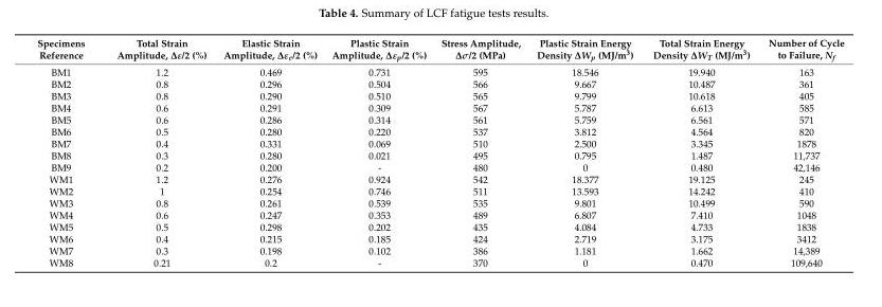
<table><thead><tr><td>Specimens Reference</td><td>Total Strain Amplitude, ∆ε/2 (%)</td><td>Elastic Strain Amplitude, ∆εe/2 (%)</td><td>Plastic Strain Amplitude, ∆εp/2 (%)</td><td>Stress Amplitude, ∆σ/2 (MPa)</td><td>Plastic Strain Energy Density ∆Wp (MJ/m3)</td><td>Total Strain Energy Density ∆WT (MJ/m3)</td><td>Number of Cycle to Failure, N<sub>f</sub></td></tr></thead><tbody><tr><td>BM1</td><td>1.2</td><td>0.469</td><td>0.731</td><td>595</td><td>18.546</td><td>19.940</td><td>163</td></tr><tr><td>BM2</td><td>0.8</td><td>0.296</td><td>0.504</td><td>566</td><td>9.667</td><td>10.487</td><td>361</td></tr><tr><td>BM3</td><td>0.8</td><td>0.290</td><td>0.510</td><td>565</td><td>9.799</td><td>10.618</td><td>405</td></tr><tr><td>BM4</td><td>0.6</td><td>0.291</td><td>0.309</td><td>567</td><td>5.787</td><td>6.613</td><td>585</td></tr><tr><td>BM5</td><td>0.6</td><td>0.286</td><td>0.314</td><td>561</td><td>5.759</td><td>6.561</td><td>571</td></tr><tr><td>BM6</td><td>0.5</td><td>0.280</td><td>0.220</td><td>537</td><td>3.812</td><td>4.564</td><td>820</td></tr><tr><td>BM7</td><td>0.4</td><td>0.331</td><td>0.069</td><td>510</td><td>2.500</td><td>3.345</td><td>1878</td></tr><tr><td>BM8</td><td>0.3</td><td>0.280</td><td>0.021</td><td>495</td><td>0.795</td><td>1.487</td><td>11,737</td></tr><tr><td>BM9</td><td>0.2</td><td>0.200</td><td>-</td><td>480</td><td>0</td><td>0.480</td><td>42,146</td></tr><tr><td>WM1</td><td>1.2</td><td>0.276</td><td>0.924</td><td>542</td><td>18.377</td><td>19.125</td><td>245</td></tr><tr><td>WM2</td><td>1</td><td>0.254</td><td>0.746</td><td>511</td><td>13.593</td><td>14.242</td><td>410</td></tr><tr><td>WM3</td><td>0.8</td><td>0.261</td><td>0.539</td><td>535</td><td>9.801</td><td>10.499</td><td>590</td></tr><tr><td>WM4</td><td>0.6</td><td>0.247</td><td>0.353</td><td>489</td><td>6.807</td><td>7.410</td><td>1048</td></tr><tr><td>WM5</td><td>0.5</td><td>0.298</td><td>0.202</td><td>435</td><td>4.084</td><td>4.733</td><td>1838</td></tr><tr><td>WM6</td><td>0.4</td><td>0.215</td><td>0.185</td><td>424</td><td>2.719</td><td>3.175</td><td>3412</td></tr><tr><td>WM7</td><td>0.3</td><td>0.198</td><td>0.102</td><td>386</td><td>1.181</td><td>1.662</td><td>14,389</td></tr><tr><td>WM8</td><td>0.21</td><td>0.2</td><td>-</td><td>370</td><td>0</td><td>0.470</td><td>109,640</td></tr></tbody></table>